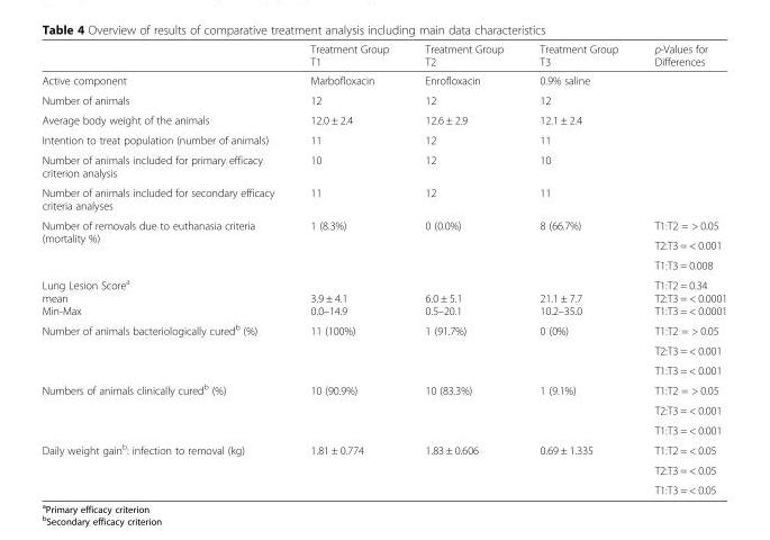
<table><thead><tr><td></td><td>Treatment Group T1</td><td>Treatment Group T2</td><td>Treatment Group T3</td><td>p-Values for Differences</td></tr></thead><tbody><tr><td>Active component</td><td>Marbofloxacin</td><td>Enrofloxacin</td><td>0.9% saline</td><td></td></tr><tr><td>Number of animals</td><td>12</td><td>12</td><td>12</td><td></td></tr><tr><td>Average body weight of the animals</td><td>12.0 ± 2.4</td><td>12.6 ± 2.9</td><td>12.1 ± 2.4</td><td></td></tr><tr><td>Intention to treat population (number of animals)</td><td>11</td><td>12</td><td>11</td><td></td></tr><tr><td>Number of animals included for primary efficacy criterion analysis</td><td>10</td><td>12</td><td>10</td><td></td></tr><tr><td>Number of animals included for secondary efficacy criteria analyses</td><td>11</td><td>12</td><td>11</td><td></td></tr><tr><td rowspan="3">Number of removals due to euthanasia criteria (mortality %)</td><td rowspan="3">1 (8.3%)</td><td rowspan="3">0 (0.0%)</td><td rowspan="3">8 (66.7%)</td><td>T1:T2 = &gt; 0.05</td></tr><tr><td>T2:T3 = &lt; 0.001</td></tr><tr><td>T1:T3 = 0.008</td></tr><tr><td>Lung Lesion Score<sup>a</sup> mean Min-Max</td><td>3.9 ± 4.1 0.0–14.9</td><td>6.0 ± 5.1 0.5–20.1</td><td>21.1 ± 7.7 10.2–35.0</td><td>T1:T2 = 0.34 T2:T3 = &lt; 0.0001 T1:T3 = &lt; 0.0001</td></tr><tr><td rowspan="3">Number of animals bacteriologically cured<sup>b</sup> (%)</td><td rowspan="3">11 (100%)</td><td rowspan="3">1 (91.7%)</td><td rowspan="3">0 (0%)</td><td>T1:T2 = &gt; 0.05</td></tr><tr><td>T2:T3 = &lt; 0.001</td></tr><tr><td>T1:T3 = &lt; 0.001</td></tr><tr><td rowspan="3">Numbers of animals clinically cured<sup>b</sup> (%)</td><td rowspan="3">10 (90.9%)</td><td rowspan="3">10 (83.3%)</td><td rowspan="3">1 (9.1%)</td><td>T1:T2 = &gt; 0.05</td></tr><tr><td>T2:T3 = &lt; 0.001</td></tr><tr><td>T1:T3 = &lt; 0.001</td></tr><tr><td rowspan="3">Daily weight gain<sup>b</sup>: infection to removal (kg)</td><td rowspan="3">1.81 ± 0.774</td><td rowspan="3">1.83 ± 0.606</td><td rowspan="3">0.69 ± 1.335</td><td>T1:T2 = &lt; 0.05</td></tr><tr><td>T2:T3 = &lt; 0.05</td></tr><tr><td>T1:T3 = &lt; 0.05</td></tr></tbody></table>